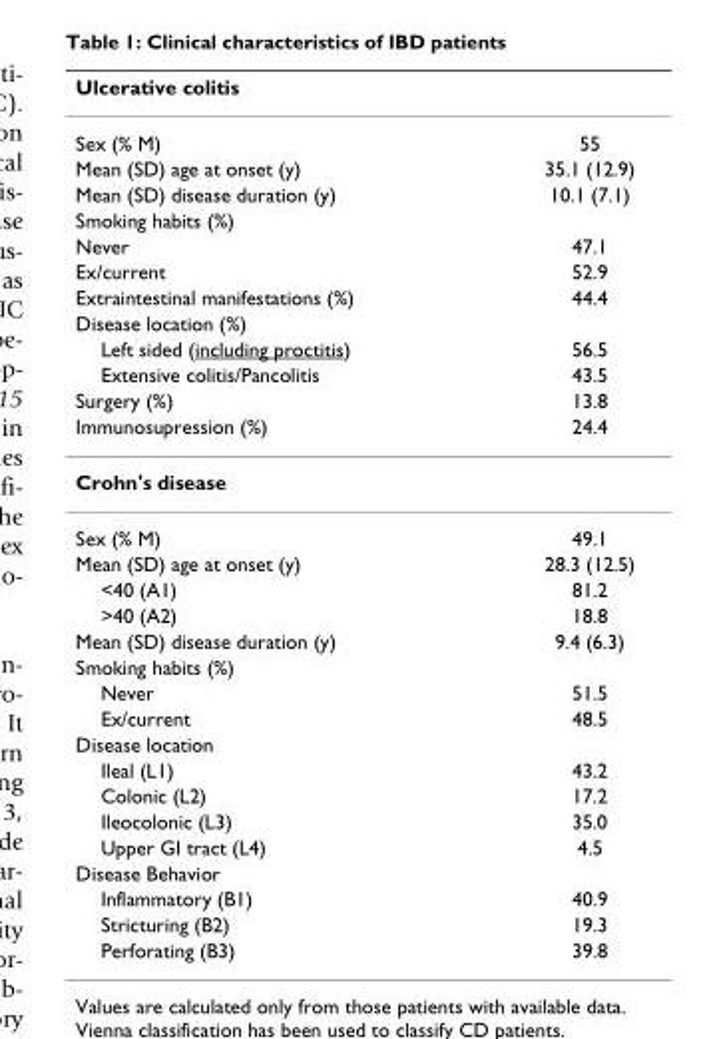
<table><thead><tr><td>Ulcerative colitis</td><td></td></tr></thead><tbody><tr><td>Sex (% M)</td><td>55</td></tr><tr><td>Mean (SD) age at onset (y)</td><td>35.1 (12.9)</td></tr><tr><td>Mean (SD) disease duration (y)</td><td>10.1 (7.1)</td></tr><tr><td colspan="2">Smoking habits (%)</td></tr><tr><td>Never</td><td>47.1</td></tr><tr><td>Ex/current</td><td>52.9</td></tr><tr><td>Extraintestinal manifestations (%)</td><td>44.4</td></tr><tr><td colspan="2">Disease location (%)</td></tr><tr><td>Left sided (including proctitis)</td><td>56.5</td></tr><tr><td>Extensive colitis/Pancolitis</td><td>43.5</td></tr><tr><td>Surgery (%)</td><td>13.8</td></tr><tr><td>Immunosupression (%)</td><td>24.4</td></tr><tr><td colspan="2">Crohn&#x27;s disease</td></tr><tr><td>Sex (% M)</td><td>49.1</td></tr><tr><td>Mean (SD) age at onset (y)</td><td>28.3 (12.5)</td></tr><tr><td>&lt;40 (A1)</td><td>81.2</td></tr><tr><td>&gt;40 (A2)</td><td>18.8</td></tr><tr><td>Mean (SD) disease duration (y)</td><td>9.4 (6.3)</td></tr><tr><td colspan="2">Smoking habits (%)</td></tr><tr><td>Never</td><td>51.5</td></tr><tr><td>Ex/current</td><td>48.5</td></tr><tr><td colspan="2">Disease location</td></tr><tr><td>Ileal (L1)</td><td>43.2</td></tr><tr><td>Colonic (L2)</td><td>17.2</td></tr><tr><td>Ileocolonic (L3)</td><td>35.0</td></tr><tr><td>Upper GI tract (L4)</td><td>4.5</td></tr><tr><td colspan="2">Disease Behavior</td></tr><tr><td>Inflammatory (B1)</td><td>40.9</td></tr><tr><td>Stricturing (B2)</td><td>19.3</td></tr><tr><td>Perforating (B3)</td><td>39.8</td></tr></tbody></table>